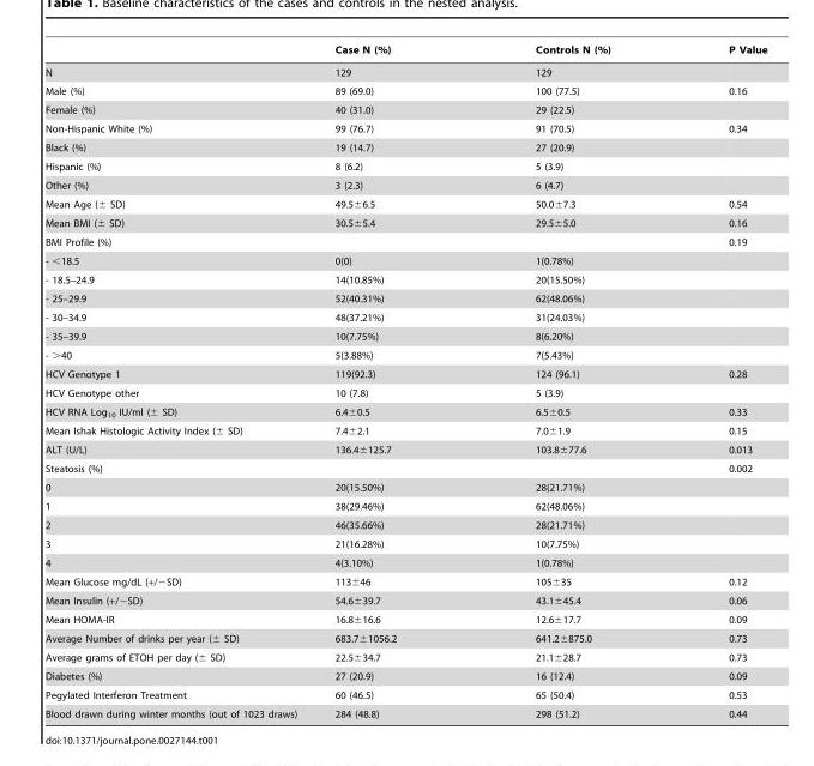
<table><thead><tr><td></td><td>Case N (%)</td><td>Controls N (%)</td><td>P Value</td></tr></thead><tbody><tr><td>N</td><td>129</td><td>129</td><td></td></tr><tr><td>Male (%)</td><td>89 (69.0)</td><td>100 (77.5)</td><td>0.16</td></tr><tr><td>Female (%)</td><td>40 (31.0)</td><td>29 (22.5)</td><td></td></tr><tr><td>Non-Hispanic White (%)</td><td>99 (76.7)</td><td>91 (70.5)</td><td>0.34</td></tr><tr><td>Black (%)</td><td>19 (14.7)</td><td>27 (20.9)</td><td></td></tr><tr><td>Hispanic (%)</td><td>8 (6.2)</td><td>5 (3.9)</td><td></td></tr><tr><td>Other (%)</td><td>3 (2.3)</td><td>6 (4.7)</td><td></td></tr><tr><td>Mean Age (± SD)</td><td>49.5±6.5</td><td>50.0±7.3</td><td>0.54</td></tr><tr><td>Mean BMI (± SD)</td><td>30.5±5.4</td><td>29.5±5.0</td><td>0.16</td></tr><tr><td>BMI Profile (%)</td><td></td><td></td><td>0.19</td></tr><tr><td>- &lt;18.5</td><td>0(0)</td><td>1(0.78%)</td><td></td></tr><tr><td>- 18.5–24.9</td><td>14(10.85%)</td><td>20(15.50%)</td><td></td></tr><tr><td>- 25–29.9</td><td>52(40.31%)</td><td>62(48.06%)</td><td></td></tr><tr><td>- 30–34.9</td><td>48(37.21%)</td><td>31(24.03%)</td><td></td></tr><tr><td>- 35–39.9</td><td>10(7.75%)</td><td>8(6.20%)</td><td></td></tr><tr><td>- &gt;40</td><td>5(3.88%)</td><td>7(5.43%)</td><td></td></tr><tr><td>HCV Genotype 1</td><td>119(92.3)</td><td>124 (96.1)</td><td>0.28</td></tr><tr><td>HCV Genotype other</td><td>10 (7.8)</td><td>5 (3.9)</td><td></td></tr><tr><td>HCV RNA Log<sub>10</sub> IU/ml (± SD)</td><td>6.4±0.5</td><td>6.5±0.5</td><td>0.33</td></tr><tr><td>Mean Ishak Histologic Activity Index (± SD)</td><td>7.4±2.1</td><td>7.0±1.9</td><td>0.15</td></tr><tr><td>ALT (U/L)</td><td>136.4±125.7</td><td>103.8±77.6</td><td>0.013</td></tr><tr><td>Steatosis (%)</td><td></td><td></td><td>0.002</td></tr><tr><td>0</td><td>20(15.50%)</td><td>28(21.71%)</td><td></td></tr><tr><td>1</td><td>38(29.46%)</td><td>62(48.06%)</td><td></td></tr><tr><td>2</td><td>46(35.66%)</td><td>28(21.71%)</td><td></td></tr><tr><td>3</td><td>21(16.28%)</td><td>10(7.75%)</td><td></td></tr><tr><td>4</td><td>4(3.10%)</td><td>1(0.78%)</td><td></td></tr><tr><td>Mean Glucose mg/dL (+/−SD)</td><td>113±46</td><td>105±35</td><td>0.12</td></tr><tr><td>Mean Insulin (+/−SD)</td><td>54.6±39.7</td><td>43.1±45.4</td><td>0.06</td></tr><tr><td>Mean HOMA-IR</td><td>16.8±16.6</td><td>12.6±17.7</td><td>0.09</td></tr><tr><td>Average Number of drinks per year (± SD)</td><td>683.7±1056.2</td><td>641.2±875.0</td><td>0.73</td></tr><tr><td>Average grams of ETOH per day (± SD)</td><td>22.5±34.7</td><td>21.1±28.7</td><td>0.73</td></tr><tr><td>Diabetes (%)</td><td>27 (20.9)</td><td>16 (12.4)</td><td>0.09</td></tr><tr><td>Pegylated Interferon Treatment</td><td>60 (46.5)</td><td>65 (50.4)</td><td>0.53</td></tr><tr><td>Blood drawn during winter months (out of 1023 draws)</td><td>284 (48.8)</td><td>298 (51.2)</td><td>0.44</td></tr></tbody></table>